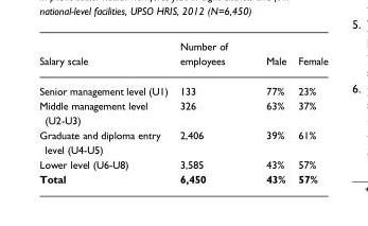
<table><thead><tr><td>Salary scale</td><td>Number of employees</td><td>Male</td><td>Female</td></tr></thead><tbody><tr><td>Senior management level (U1)</td><td>133</td><td>77%</td><td>23%</td></tr><tr><td>Middle management level (U2-U3)</td><td>326</td><td>63%</td><td>37%</td></tr><tr><td>Graduate and diploma entry level (U4-U5)</td><td>2,406</td><td>39%</td><td>61%</td></tr><tr><td>Lower level (U6-U8)</td><td>3,585</td><td>43%</td><td>57%</td></tr><tr><td>Total</td><td>6,450</td><td>43%</td><td>57%</td></tr></tbody></table>